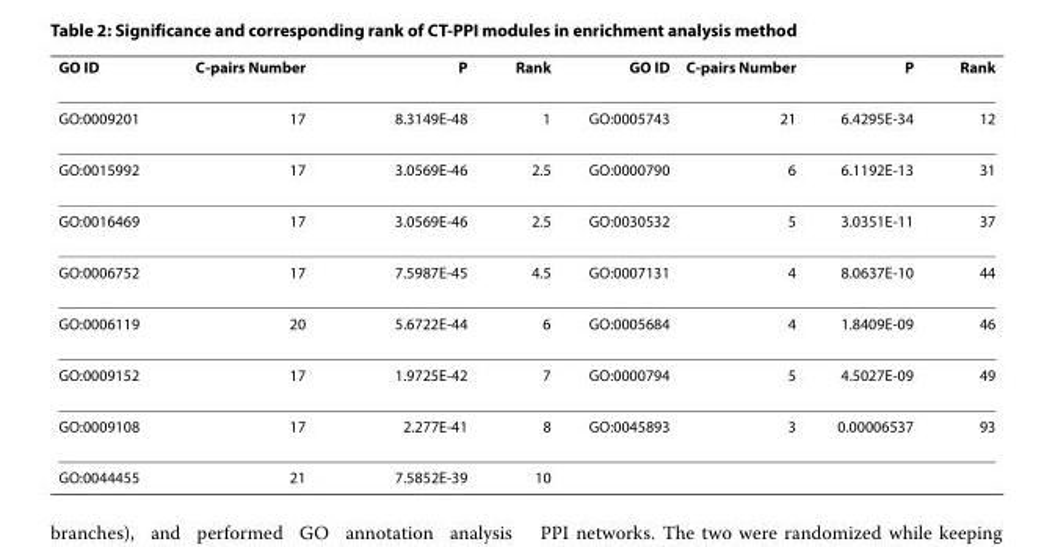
<table><thead><tr><td>GO ID</td><td>C-pairs Number</td><td>P</td><td>Rank</td><td>GO ID</td><td>C-pairs Number</td><td>P</td><td>Rank</td></tr></thead><tbody><tr><td>GO:0009201</td><td>17</td><td>8.3149E-48</td><td>1</td><td>GO:0005743</td><td>21</td><td>6.4295E-34</td><td>12</td></tr><tr><td>GO:0015992</td><td>17</td><td>3.0569E-46</td><td>2.5</td><td>GO:0000790</td><td>6</td><td>6.1192E-13</td><td>31</td></tr><tr><td>GO:0016469</td><td>17</td><td>3.0569E-46</td><td>2.5</td><td>GO:0030532</td><td>5</td><td>3.0351E-11</td><td>37</td></tr><tr><td>GO:0006752</td><td>17</td><td>7.5987E-45</td><td>4.5</td><td>GO:0007131</td><td>4</td><td>8.0637E-10</td><td>44</td></tr><tr><td>GO:0006119</td><td>20</td><td>5.6722E-44</td><td>6</td><td>GO:0005684</td><td>4</td><td>1.8409E-09</td><td>46</td></tr><tr><td>GO:0009152</td><td>17</td><td>1.9725E-42</td><td>7</td><td>GO:0000794</td><td>5</td><td>4.5027E-09</td><td>49</td></tr><tr><td>GO:0009108</td><td>17</td><td>2.277E-41</td><td>8</td><td>GO:0045893</td><td>3</td><td>0.00006537</td><td>93</td></tr><tr><td>GO:0044455</td><td>21</td><td>7.5852E-39</td><td>10</td><td></td><td></td><td></td><td></td></tr></tbody></table>